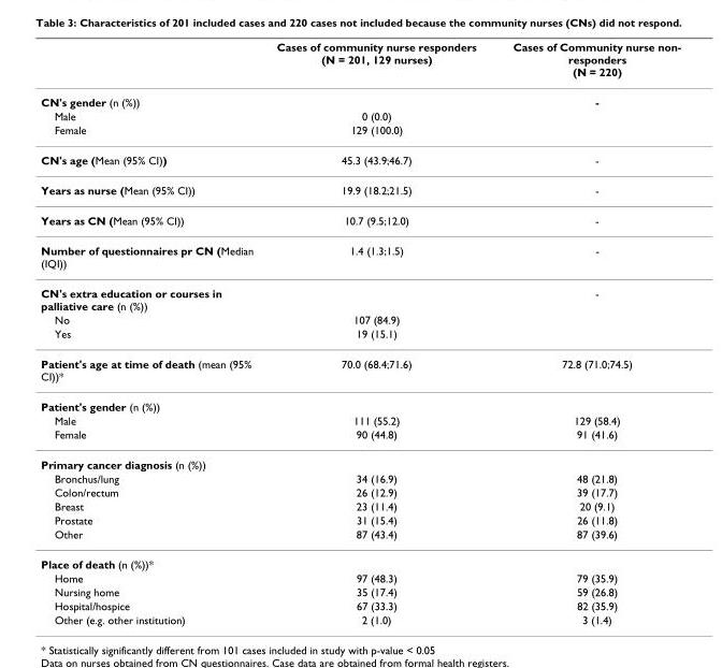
<table><thead><tr><td></td><td>Cases of community nurse responders (N = 201, 129 nurses)</td><td>Cases of Community nurse non- responders (N = 220)</td></tr></thead><tbody><tr><td>CN&#x27;s gender (n (%))</td><td></td><td>-</td></tr><tr><td>Male</td><td>0 (0.0)</td><td></td></tr><tr><td>Female</td><td>129 (100.0)</td><td></td></tr><tr><td>CN&#x27;s age (Mean (95% CI))</td><td>45.3 (43.9;46.7)</td><td>-</td></tr><tr><td>Years as nurse (Mean (95% CI))</td><td>19.9 (18.2;21.5)</td><td>-</td></tr><tr><td>Years as CN (Mean (95% CI))</td><td>10.7 (9.5;12.0)</td><td>-</td></tr><tr><td>Number of questionnaires pr CN (Median (IQI))</td><td>1.4 (1.3;1.5)</td><td>-</td></tr><tr><td>CN&#x27;s extra education or courses in palliative care (n (%))</td><td></td><td>-</td></tr><tr><td>No</td><td>107 (84.9)</td><td></td></tr><tr><td>Yes</td><td>19 (15.1)</td><td></td></tr><tr><td>Patient&#x27;s age at time of death (mean (95% CI))*</td><td>70.0 (68.4;71.6)</td><td>72.8 (71.0;74.5)</td></tr><tr><td colspan="3">Patient&#x27;s gender (n (%))</td></tr><tr><td>Male</td><td>111 (55.2)</td><td>129 (58.4)</td></tr><tr><td>Female</td><td>90 (44.8)</td><td>91 (41.6)</td></tr><tr><td colspan="3">Primary cancer diagnosis (n (%))</td></tr><tr><td>Bronchus/lung</td><td>34 (16.9)</td><td>48 (21.8)</td></tr><tr><td>Colon/rectum</td><td>26 (12.9)</td><td>39 (17.7)</td></tr><tr><td>Breast</td><td>23 (11.4)</td><td>20 (9.1)</td></tr><tr><td>Prostate</td><td>31 (15.4)</td><td>26 (11.8)</td></tr><tr><td>Other</td><td>87 (43.4)</td><td>87 (39.6)</td></tr><tr><td colspan="3">Place of death (n (%))*</td></tr><tr><td>Home</td><td>97 (48.3)</td><td>79 (35.9)</td></tr><tr><td>Nursing home</td><td>35 (17.4)</td><td>59 (26.8)</td></tr><tr><td>Hospital/hospice</td><td>67 (33.3)</td><td>82 (35.9)</td></tr><tr><td>Other (e.g. other institution)</td><td>2 (1.0)</td><td>3 (1.4)</td></tr></tbody></table>